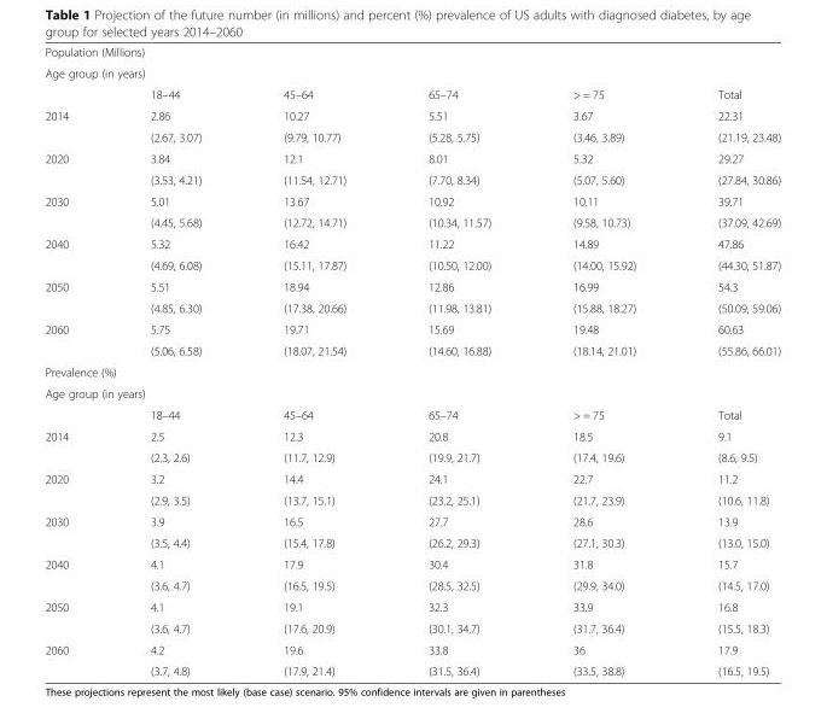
<table><tbody><tr><td colspan="6">Population (Millions)</td></tr><tr><td colspan="6">Age group (in years)</td></tr><tr><td></td><td>18–44</td><td>45–64</td><td>65–74</td><td>&gt; = 75</td><td>Total</td></tr><tr><td rowspan="2">2014</td><td>2.86</td><td>10.27</td><td>5.51</td><td>3.67</td><td>22.31</td></tr><tr><td>(2.67, 3.07)</td><td>(9.79, 10.77)</td><td>(5.28, 5.75)</td><td>(3.46, 3.89)</td><td>(21.19, 23.48)</td></tr><tr><td rowspan="2">2020</td><td>3.84</td><td>12.1</td><td>8.01</td><td>5.32</td><td>29.27</td></tr><tr><td>(3.53, 4.21)</td><td>(11.54, 12.71)</td><td>(7.70, 8.34)</td><td>(5.07, 5.60)</td><td>(27.84, 30.86)</td></tr><tr><td rowspan="2">2030</td><td>5.01</td><td>13.67</td><td>10.92</td><td>10.11</td><td>39.71</td></tr><tr><td>(4.45, 5.68)</td><td>(12.72, 14.71)</td><td>(10.34, 11.57)</td><td>(9.58, 10.73)</td><td>(37.09, 42.69)</td></tr><tr><td rowspan="2">2040</td><td>5.32</td><td>16.42</td><td>11.22</td><td>14.89</td><td>47.86</td></tr><tr><td>(4.69, 6.08)</td><td>(15.11, 17.87)</td><td>(10.50, 12.00)</td><td>(14.00, 15.92)</td><td>(44.30, 51.87)</td></tr><tr><td rowspan="2">2050</td><td>5.51</td><td>18.94</td><td>12.86</td><td>16.99</td><td>54.3</td></tr><tr><td>(4.85, 6.30)</td><td>(17.38, 20.66)</td><td>(11.98, 13.81)</td><td>(15.88, 18.27)</td><td>(50.09, 59.06)</td></tr><tr><td rowspan="2">2060</td><td>5.75</td><td>19.71</td><td>15.69</td><td>19.48</td><td>60.63</td></tr><tr><td>(5.06, 6.58)</td><td>(18.07, 21.54)</td><td>(14.60, 16.88)</td><td>(18.14, 21.01)</td><td>(55.86, 66.01)</td></tr><tr><td colspan="6">Prevalence (%)</td></tr><tr><td colspan="6">Age group (in years)</td></tr><tr><td></td><td>18–44</td><td>45–64</td><td>65–74</td><td>&gt; = 75</td><td>Total</td></tr><tr><td rowspan="2">2014</td><td>2.5</td><td>12.3</td><td>20.8</td><td>18.5</td><td>9.1</td></tr><tr><td>(2.3, 2.6)</td><td>(11.7, 12.9)</td><td>(19.9, 21.7)</td><td>(17.4, 19.6)</td><td>(8.6, 9.5)</td></tr><tr><td rowspan="2">2020</td><td>3.2</td><td>14.4</td><td>24.1</td><td>22.7</td><td>11.2</td></tr><tr><td>(2.9, 3.5)</td><td>(13.7, 15.1)</td><td>(23.2, 25.1)</td><td>(21.7, 23.9)</td><td>(10.6, 11.8)</td></tr><tr><td rowspan="2">2030</td><td>3.9</td><td>16.5</td><td>27.7</td><td>28.6</td><td>13.9</td></tr><tr><td>(3.5, 4.4)</td><td>(15.4, 17.8)</td><td>(26.2, 29.3)</td><td>(27.1, 30.3)</td><td>(13.0, 15.0)</td></tr><tr><td rowspan="2">2040</td><td>4.1</td><td>17.9</td><td>30.4</td><td>31.8</td><td>15.7</td></tr><tr><td>(3.6, 4.7)</td><td>(16.5, 19.5)</td><td>(28.5, 32.5)</td><td>(29.9, 34.0)</td><td>(14.5, 17.0)</td></tr><tr><td rowspan="2">2050</td><td>4.1</td><td>19.1</td><td>32.3</td><td>33.9</td><td>16.8</td></tr><tr><td>(3.6, 4.7)</td><td>(17.6, 20.9)</td><td>(30.1, 34.7)</td><td>(31.7, 36.4)</td><td>(15.5, 18.3)</td></tr><tr><td rowspan="2">2060</td><td>4.2</td><td>19.6</td><td>33.8</td><td>36</td><td>17.9</td></tr><tr><td>(3.7, 4.8)</td><td>(17.9, 21.4)</td><td>(31.5, 36.4)</td><td>(33.5, 38.8)</td><td>(16.5, 19.5)</td></tr></tbody></table>